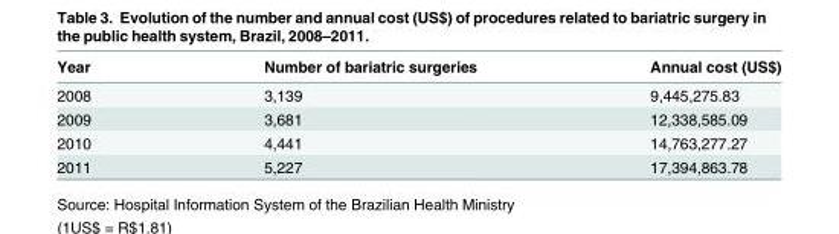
<table><thead><tr><td>Year</td><td>Number of bariatric surgeries</td><td>Annual cost (US$)</td></tr></thead><tbody><tr><td>2008</td><td>3,139</td><td>9,445,275.83</td></tr><tr><td>2009</td><td>3,681</td><td>12,338,585.09</td></tr><tr><td>2010</td><td>4,441</td><td>14,763,277.27</td></tr><tr><td>2011</td><td>5,227</td><td>17,394,863.78</td></tr></tbody></table>